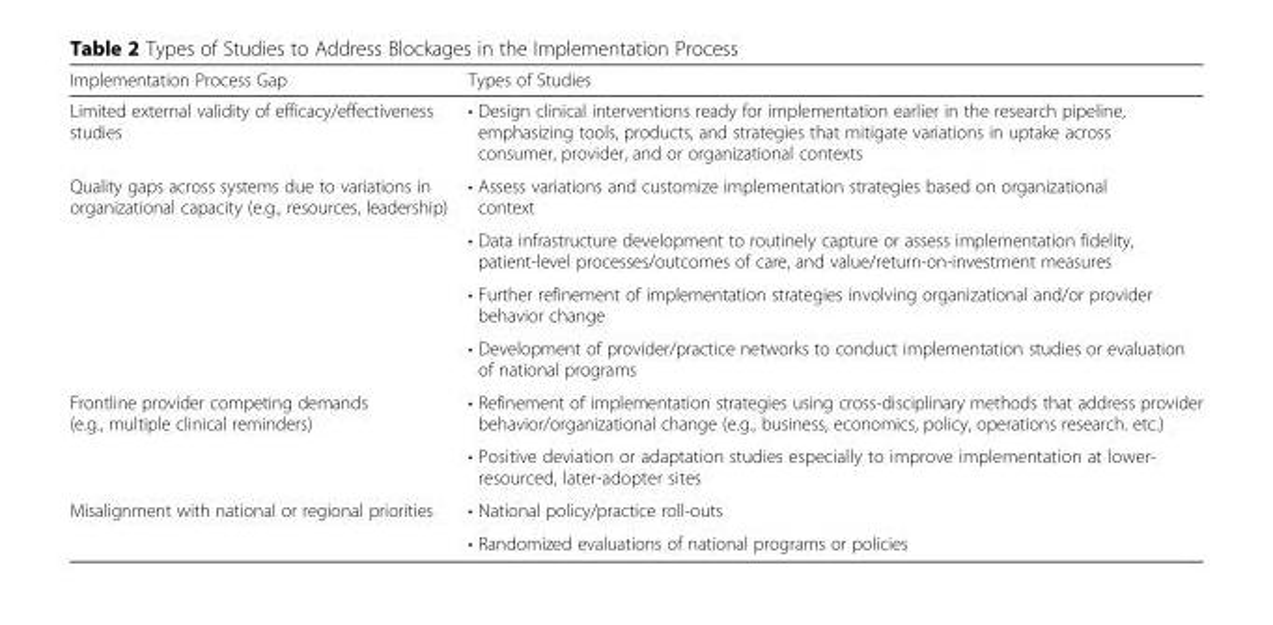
<table><thead><tr><td>Implementation Process Gap</td><td>Types of Studies</td></tr></thead><tbody><tr><td>Limited external validity of efficacy/effectiveness studies</td><td>• Design clinical interventions ready for implementation earlier in the research pipeline, emphasizing tools, products, and strategies that mitigate variations in uptake across consumer, provider, and or organizational contexts</td></tr><tr><td rowspan="4">Quality gaps across systems due to variations in organizational capacity (e.g., resources, leadership)</td><td>• Assess variations and customize implementation strategies based on organizational context</td></tr><tr><td>• Data infrastructure development to routinely capture or assess implementation fidelity, patient-level processes/outcomes of care, and value/return-on-investment measures</td></tr><tr><td>• Further refinement of implementation strategies involving organizational and/or provider behavior change</td></tr><tr><td>• Development of provider/practice networks to conduct implementation studies or evaluation of national programs</td></tr><tr><td rowspan="2">Frontline provider competing demands (e.g., multiple clinical reminders)</td><td>• Refinement of implementation strategies using cross-disciplinary methods that address provider behavior/organizational change (e.g., business, economics, policy, operations research. etc.)</td></tr><tr><td>• Positive deviation or adaptation studies especially to improve implementation at lower- resourced, later-adopter sites</td></tr><tr><td rowspan="2">Misalignment with national or regional priorities</td><td>• National policy/practice roll-outs</td></tr><tr><td>• Randomized evaluations of national programs or policies</td></tr></tbody></table>